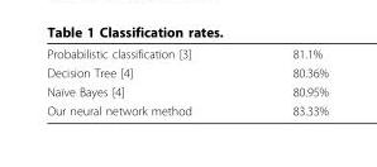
<table><tbody><tr><td>Probabilistic classification [3]</td><td>81.1%</td></tr><tr><td>Decision Tree [4]</td><td>80.36%</td></tr><tr><td>Naïve Bayes [4]</td><td>80.95%</td></tr><tr><td>Our neural network method</td><td>83.33%</td></tr></tbody></table>